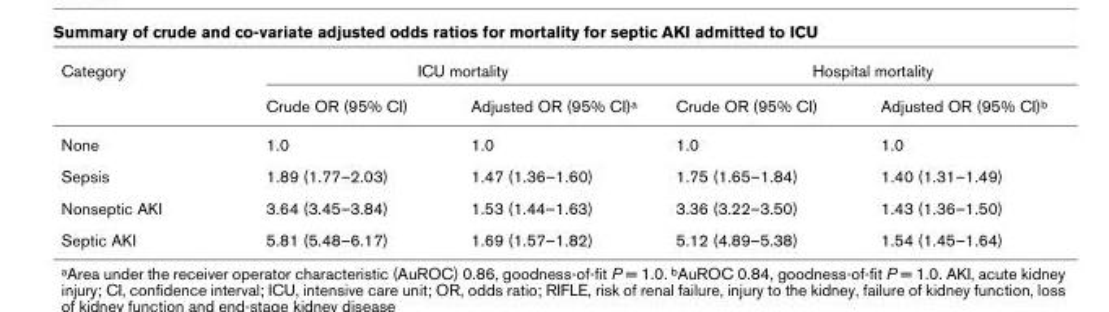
<table><thead><tr><td rowspan="2">Category</td><td colspan="2">ICU mortality</td><td colspan="2">Hospital mortality</td></tr><tr><td>Crude OR (95% CI)</td><td>Adjusted OR (95% CI)<sup>a</sup></td><td>Crude OR (95% CI)</td><td>Adjusted OR (95% CI)<sup>b</sup></td></tr></thead><tbody><tr><td>None</td><td>1.0</td><td>1.0</td><td>1.0</td><td>1.0</td></tr><tr><td>Sepsis</td><td>1.89 (1.77–2.03)</td><td>1.47 (1.36–1.60)</td><td>1.75 (1.65–1.84)</td><td>1.40 (1.31–1.49)</td></tr><tr><td>Nonseptic AKI</td><td>3.64 (3.45–3.84)</td><td>1.53 (1.44–1.63)</td><td>3.36 (3.22–3.50)</td><td>1.43 (1.36–1.50)</td></tr><tr><td>Septic AKI</td><td>5.81 (5.48–6.17)</td><td>1.69 (1.57–1.82)</td><td>5.12 (4.89–5.38)</td><td>1.54 (1.45–1.64)</td></tr></tbody></table>